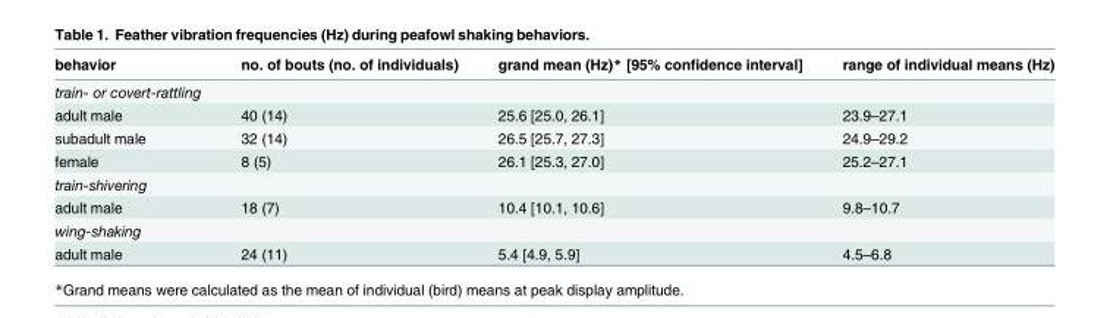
<table><thead><tr><td>behavior</td><td>no. of bouts (no. of individuals)</td><td>grand mean (Hz)* [95% confidence interval]</td><td>range of individual means (Hz)</td></tr></thead><tbody><tr><td colspan="4">train- or covert-rattling</td></tr><tr><td>adult male</td><td>40 (14)</td><td>25.6 [25.0, 26.1]</td><td>23.9–27.1</td></tr><tr><td>subadult male</td><td>32 (14)</td><td>26.5 [25.7, 27.3]</td><td>24.9–29.2</td></tr><tr><td>female</td><td>8 (5)</td><td>26.1 [25.3, 27.0]</td><td>25.2–27.1</td></tr><tr><td colspan="4">train-shivering</td></tr><tr><td>adult male</td><td>18 (7)</td><td>10.4 [10.1, 10.6]</td><td>9.8–10.7</td></tr><tr><td colspan="4">wing-shaking</td></tr><tr><td>adult male</td><td>24 (11)</td><td>5.4 [4.9, 5.9]</td><td>4.5–6.8</td></tr></tbody></table>